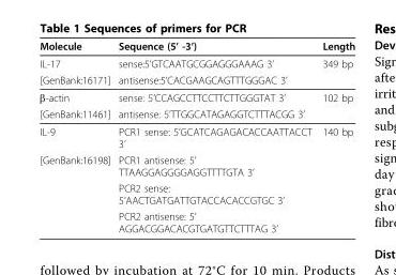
<table><thead><tr><td>Molecule</td><td>Sequence (5’ -3’)</td><td>Length</td></tr></thead><tbody><tr><td>IL-17</td><td>sense:5’GTCAATGCGGAGGGAAAG 3’</td><td>349 bp</td></tr><tr><td>[GenBank:16171]</td><td>antisense:5’CACGAAGCAGTTTGGGAC 3’</td><td></td></tr><tr><td>β-actin</td><td>sense: 5’CCAGCCTTCCTTCTTGGGTAT 3’</td><td>102 bp</td></tr><tr><td>[GenBank:11461]</td><td>antisense: 5’TTGGCATAGAGGTCTTTACGG 3’</td><td></td></tr><tr><td>IL-9</td><td>PCR1 sense: 5’GCATCAGAGACACCAATTACCT 3’</td><td>140 bp</td></tr><tr><td rowspan="3">[GenBank:16198]</td><td>PCR1 antisense: 5’ TTAAGGAGGGGAGGTTTTGTA 3’</td><td></td></tr><tr><td>PCR2 sense: 5’AACTGATGATTGTACCACACCGTGC 3’</td><td></td></tr><tr><td>PCR2 antisense: 5’ AGGACGGACACGTGATGTTCTTTAG 3’</td><td></td></tr></tbody></table>